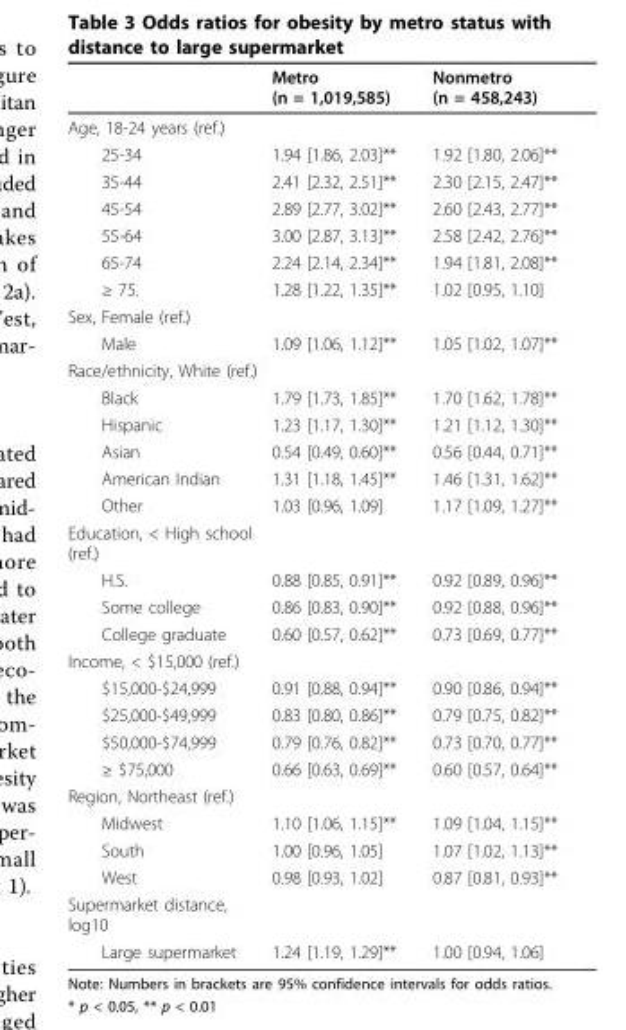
<table><thead><tr><td></td><td>Metro (n = 1,019,585)</td><td>Nonmetro (n = 458,243)</td></tr></thead><tbody><tr><td colspan="3">Age, 18-24 years (ref.)</td></tr><tr><td>25-34</td><td>1.94 [1.86, 2.03]**</td><td>1.92 [1.80, 2.06]**</td></tr><tr><td>35-44</td><td>2.41 [2.32, 2.51]**</td><td>2.30 [2.15, 2.47]**</td></tr><tr><td>45-54</td><td>2.89 [2.77, 3.02]**</td><td>2.60 [2.43, 2.77]**</td></tr><tr><td>55-64</td><td>3.00 [2.87, 3.13]**</td><td>2.58 [2.42, 2.76]**</td></tr><tr><td>65-74</td><td>2.24 [2.14, 2.34]**</td><td>1.94 [1.81, 2.08]**</td></tr><tr><td>≥ 75.</td><td>1.28 [1.22, 1.35]**</td><td>1.02 [0.95, 1.10]</td></tr><tr><td colspan="3">Sex, Female (ref.)</td></tr><tr><td>Male</td><td>1.09 [1.06, 1.12]**</td><td>1.05 [1.02, 1.07]**</td></tr><tr><td colspan="3">Race/ethnicity, White (ref.)</td></tr><tr><td>Black</td><td>1.79 [1.73, 1.85]**</td><td>1.70 [1.62, 1.78]**</td></tr><tr><td>Hispanic</td><td>1.23 [1.17, 1.30]**</td><td>1.21 [1.12, 1.30]**</td></tr><tr><td>Asian</td><td>0.54 [0.49, 0.60]**</td><td>0.56 [0.44, 0.71]**</td></tr><tr><td>American Indian</td><td>1.31 [1.18, 1.45]**</td><td>1.46 [1.31, 1.62]**</td></tr><tr><td>Other</td><td>1.03 [0.96, 1.09]</td><td>1.17 [1.09, 1.27]**</td></tr><tr><td colspan="3">Education, &lt; High school (ref.)</td></tr><tr><td>H.S.</td><td>0.88 [0.85, 0.91]**</td><td>0.92 [0.89, 0.96]**</td></tr><tr><td>Some college</td><td>0.86 [0.83, 0.90]**</td><td>0.92 [0.88, 0.96]**</td></tr><tr><td>College graduate</td><td>0.60 [0.57, 0.62]**</td><td>0.73 [0.69, 0.77]**</td></tr><tr><td colspan="3">Income, &lt; $15,000 (ref.)</td></tr><tr><td>$15,000-$24,999</td><td>0.91 [0.88, 0.94]**</td><td>0.90 [0.86, 0.94]**</td></tr><tr><td>$25,000-$49,999</td><td>0.83 [0.80, 0.86]**</td><td>0.79 [0.75, 0.82]**</td></tr><tr><td>$50,000-$74,999</td><td>0.79 [0.76, 0.82]**</td><td>0.73 [0.70, 0.77]**</td></tr><tr><td>≥ $75,000</td><td>0.66 [0.63, 0.69]**</td><td>0.60 [0.57, 0.64]**</td></tr><tr><td colspan="3">Region, Northeast (ref.)</td></tr><tr><td>Midwest</td><td>1.10 [1.06, 1.15]**</td><td>1.09 [1.04, 1.15]**</td></tr><tr><td>South</td><td>1.00 [0.96, 1.05]</td><td>1.07 [1.02, 1.13]**</td></tr><tr><td>West</td><td>0.98 [0.93, 1.02]</td><td>0.87 [0.81, 0.93]**</td></tr><tr><td colspan="3">Supermarket distance, log10</td></tr><tr><td>Large supermarket</td><td>1.24 [1.19, 1.29]**</td><td>1.00 [0.94, 1.06]</td></tr></tbody></table>